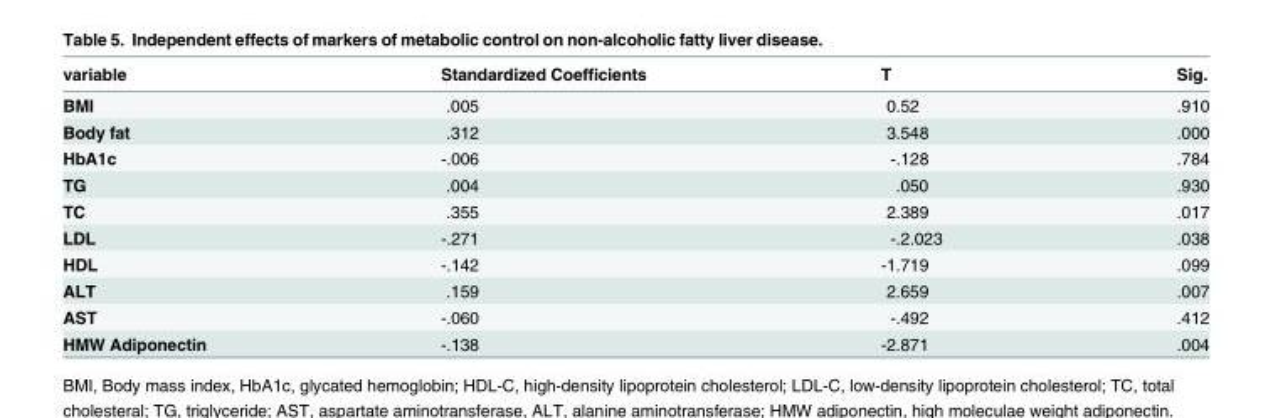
<table><thead><tr><td>variable</td><td>Standardized Coefficients</td><td>T</td><td>Sig.</td></tr></thead><tbody><tr><td>BMI</td><td>.005</td><td>0.52</td><td>.910</td></tr><tr><td>Body fat</td><td>.312</td><td>3.548</td><td>.000</td></tr><tr><td>HbA1c</td><td>-.006</td><td>-.128</td><td>.784</td></tr><tr><td>TG</td><td>.004</td><td>.050</td><td>.930</td></tr><tr><td>TC</td><td>.355</td><td>2.389</td><td>.017</td></tr><tr><td>LDL</td><td>-.271</td><td>-.2.023</td><td>.038</td></tr><tr><td>HDL</td><td>-.142</td><td>-1.719</td><td>.099</td></tr><tr><td>ALT</td><td>.159</td><td>2.659</td><td>.007</td></tr><tr><td>AST</td><td>-.060</td><td>-.492</td><td>.412</td></tr><tr><td>HMW Adiponectin</td><td>-.138</td><td>-2.871</td><td>.004</td></tr></tbody></table>